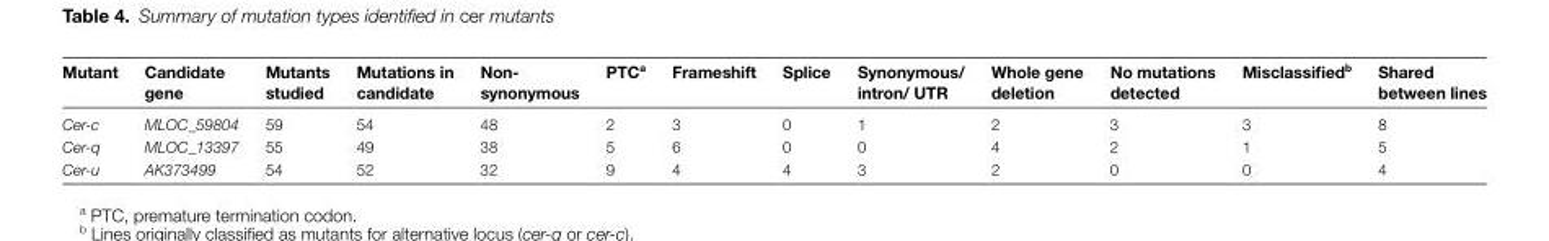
<table><thead><tr><td>Mutant</td><td>Candidate gene</td><td>Mutants studied</td><td>Mutations in candidate</td><td>Non- synonymous</td><td>PTC<sup>a</sup></td><td>Frameshift</td><td>Splice</td><td>Synonymous/ intron/ UTR</td><td>Whole gene deletion</td><td>No mutations detected</td><td>Misclassified<sup>b</sup></td><td>Shared between lines</td></tr></thead><tbody><tr><td>Cer-c</td><td>MLOC_59804</td><td>59</td><td>54</td><td>48</td><td>2</td><td>3</td><td>0</td><td>1</td><td>2</td><td>3</td><td>3</td><td>8</td></tr><tr><td>Cer-q</td><td>MLOC_13397</td><td>55</td><td>49</td><td>38</td><td>5</td><td>6</td><td>0</td><td>0</td><td>4</td><td>2</td><td>1</td><td>5</td></tr><tr><td>Cer-u</td><td>AK373499</td><td>54</td><td>52</td><td>32</td><td>9</td><td>4</td><td>4</td><td>3</td><td>2</td><td>0</td><td>0</td><td>4</td></tr></tbody></table>